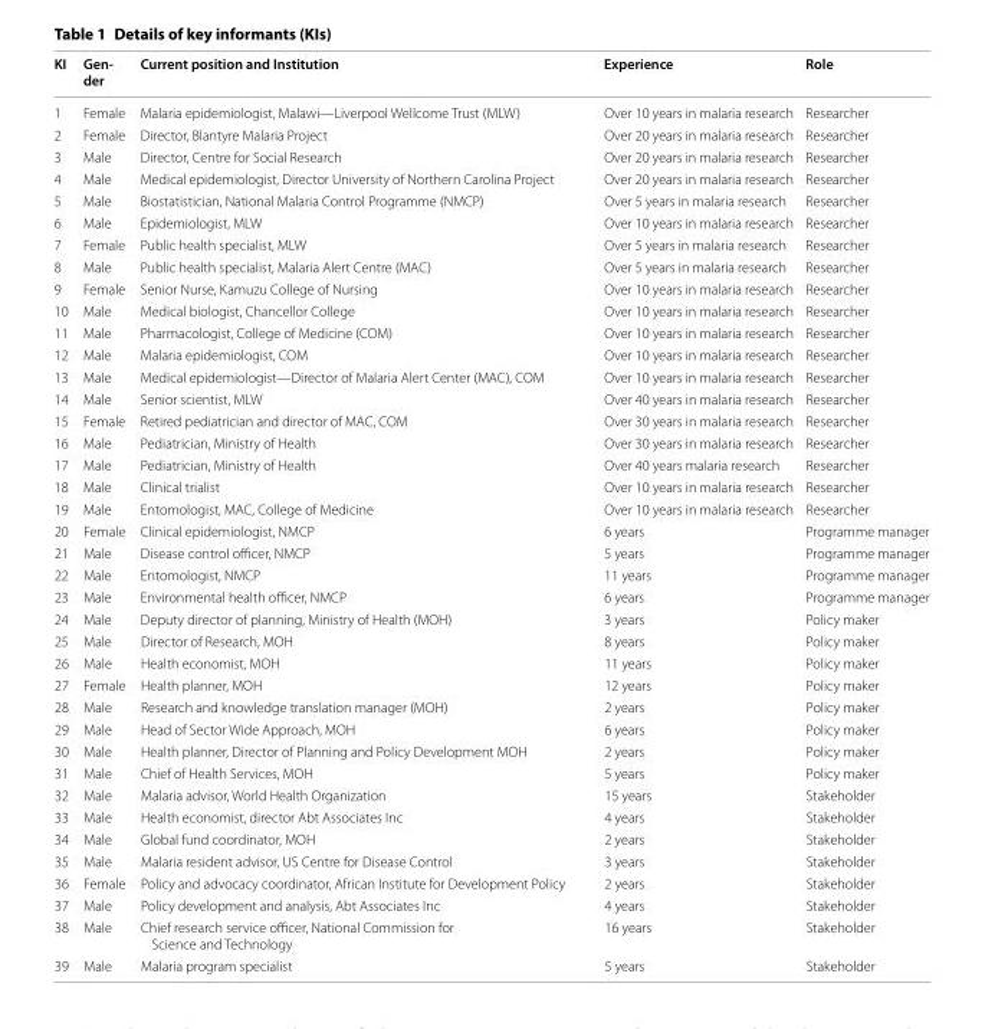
<table><thead><tr><td>KI</td><td>Gen- der</td><td>Current position and Institution</td><td>Experience</td><td>Role</td></tr></thead><tbody><tr><td>1</td><td>Female</td><td>Malaria epidemiologist, Malawi—Liverpool Wellcome Trust (MLW)</td><td>Over 10 years in malaria research</td><td>Researcher</td></tr><tr><td>2</td><td>Female</td><td>Director, Blantyre Malaria Project</td><td>Over 20 years in malaria research</td><td>Researcher</td></tr><tr><td>3</td><td>Male</td><td>Director, Centre for Social Research</td><td>Over 20 years in malaria research</td><td>Researcher</td></tr><tr><td>4</td><td>Male</td><td>Medical epidemiologist, Director University of Northern Carolina Project</td><td>Over 20 years in malaria research</td><td>Researcher</td></tr><tr><td>5</td><td>Male</td><td>Biostatistician, National Malaria Control Programme (NMCP)</td><td>Over 5 years in malaria research</td><td>Researcher</td></tr><tr><td>6</td><td>Male</td><td>Epidemiologist, MLW</td><td>Over 10 years in malaria research</td><td>Researcher</td></tr><tr><td>7</td><td>Female</td><td>Public health specialist, MLW</td><td>Over 5 years in malaria research</td><td>Researcher</td></tr><tr><td>8</td><td>Male</td><td>Public health specialist, Malaria Alert Centre (MAC)</td><td>Over 5 years in malaria research</td><td>Researcher</td></tr><tr><td>9</td><td>Female</td><td>Senior Nurse, Kamuzu College of Nursing</td><td>Over 10 years in malaria research</td><td>Researcher</td></tr><tr><td>10</td><td>Male</td><td>Medical biologist, Chancellor College</td><td>Over 10 years in malaria research</td><td>Researcher</td></tr><tr><td>11</td><td>Male</td><td>Pharmacologist, College of Medicine (COM)</td><td>Over 10 years in malaria research</td><td>Researcher</td></tr><tr><td>12</td><td>Male</td><td>Malaria epidemiologist, COM</td><td>Over 10 years in malaria research</td><td>Researcher</td></tr><tr><td>13</td><td>Male</td><td>Medical epidemiologist—Director of Malaria Alert Center (MAC), COM</td><td>Over 10 years in malaria research</td><td>Researcher</td></tr><tr><td>14</td><td>Male</td><td>Senior scientist, MLW</td><td>Over 40 years in malaria research</td><td>Researcher</td></tr><tr><td>15</td><td>Female</td><td>Retired pediatrician and director of MAC, COM</td><td>Over 30 years in malaria research</td><td>Researcher</td></tr><tr><td>16</td><td>Male</td><td>Pediatrician, Ministry of Health</td><td>Over 30 years in malaria research</td><td>Researcher</td></tr><tr><td>17</td><td>Male</td><td>Pediatrician, Ministry of Health</td><td>Over 40 years malaria research</td><td>Researcher</td></tr><tr><td>18</td><td>Male</td><td>Clinical trialist</td><td>Over 10 years in malaria research</td><td>Researcher</td></tr><tr><td>19</td><td>Male</td><td>Entomologist, MAC, College of Medicine</td><td>Over 10 years in malaria research</td><td>Researcher</td></tr><tr><td>20</td><td>Female</td><td>Clinical epidemiologist, NMCP</td><td>6 years</td><td>Programme manager</td></tr><tr><td>21</td><td>Male</td><td>Disease control officer, NMCP</td><td>5 years</td><td>Programme manager</td></tr><tr><td>22</td><td>Male</td><td>Entomologist, NMCP</td><td>11 years</td><td>Programme manager</td></tr><tr><td>23</td><td>Male</td><td>Environmental health officer, NMCP</td><td>6 years</td><td>Programme manager</td></tr><tr><td>24</td><td>Male</td><td>Deputy director of planning, Ministry of Health (MOH)</td><td>3 years</td><td>Policy maker</td></tr><tr><td>25</td><td>Male</td><td>Director of Research, MOH</td><td>8 years</td><td>Policy maker</td></tr><tr><td>26</td><td>Male</td><td>Health economist, MOH</td><td>11 years</td><td>Policy maker</td></tr><tr><td>27</td><td>Female</td><td>Health planner, MOH</td><td>12 years</td><td>Policy maker</td></tr><tr><td>28</td><td>Male</td><td>Research and knowledge translation manager (MOH)</td><td>2 years</td><td>Policy maker</td></tr><tr><td>29</td><td>Male</td><td>Head of Sector Wide Approach, MOH</td><td>6 years</td><td>Policy maker</td></tr><tr><td>30</td><td>Male</td><td>Health planner, Director of Planning and Policy Development MOH</td><td>2 years</td><td>Policy maker</td></tr><tr><td>31</td><td>Male</td><td>Chief of Health Services, MOH</td><td>5 years</td><td>Policy maker</td></tr><tr><td>32</td><td>Male</td><td>Malaria advisor, World Health Organization</td><td>15 years</td><td>Stakeholder</td></tr><tr><td>33</td><td>Male</td><td>Health economist, director Abt Associates Inc</td><td>4 years</td><td>Stakeholder</td></tr><tr><td>34</td><td>Male</td><td>Global fund coordinator, MOH</td><td>2 years</td><td>Stakeholder</td></tr><tr><td>35</td><td>Male</td><td>Malaria resident advisor, US Centre for Disease Control</td><td>3 years</td><td>Stakeholder</td></tr><tr><td>36</td><td>Female</td><td>Policy and advocacy coordinator, African Institute for Development Policy</td><td>2 years</td><td>Stakeholder</td></tr><tr><td>37</td><td>Male</td><td>Policy development and analysis, Abt Associates Inc</td><td>4 years</td><td>Stakeholder</td></tr><tr><td>38</td><td>Male</td><td>Chief research service officer, National Commission for Science and Technology</td><td>16 years</td><td>Stakeholder</td></tr><tr><td>39</td><td>Male</td><td>Malaria program specialist</td><td>5 years</td><td>Stakeholder</td></tr></tbody></table>